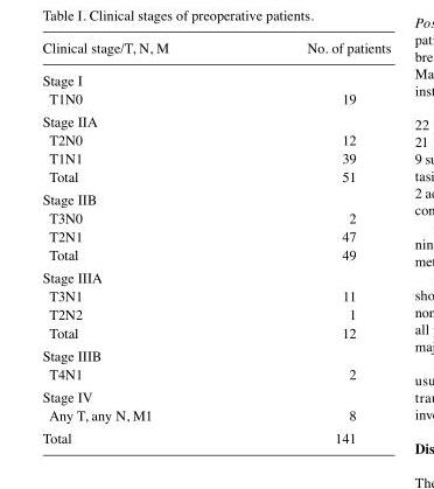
<table><thead><tr><td>Clinical stage/T, N, M</td><td>No. of patients</td></tr></thead><tbody><tr><td colspan="2">Stage I</td></tr><tr><td>T1N0</td><td>19</td></tr><tr><td colspan="2">Stage IIA</td></tr><tr><td>T2N0</td><td>12</td></tr><tr><td>T1N1</td><td>39</td></tr><tr><td>Total</td><td>51</td></tr><tr><td colspan="2">Stage IIB</td></tr><tr><td>T3N0</td><td>2</td></tr><tr><td>T2N1</td><td>47</td></tr><tr><td>Total</td><td>49</td></tr><tr><td colspan="2">Stage IIIA</td></tr><tr><td>T3N1</td><td>11</td></tr><tr><td>T2N2</td><td>1</td></tr><tr><td>Total</td><td>12</td></tr><tr><td colspan="2">Stage IIIB</td></tr><tr><td>T4N1</td><td>2</td></tr><tr><td colspan="2">Stage IV</td></tr><tr><td>Any T, any N, M1</td><td>8</td></tr><tr><td>Total</td><td>141</td></tr></tbody></table>